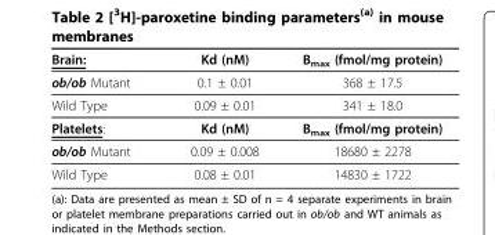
<table><thead><tr><td>Brain:</td><td>Kd (nM)</td><td>B<sub>max</sub> (fmol/mg protein)</td></tr></thead><tbody><tr><td>ob/ob Mutant</td><td>0.1 ± 0.01</td><td>368 ± 17.5</td></tr><tr><td>Wild Type</td><td>0.09 ± 0.01</td><td>341 ± 18.0</td></tr><tr><td>Platelets:</td><td>Kd (nM)</td><td>B<sub>max</sub> (fmol/mg protein)</td></tr><tr><td>ob/ob Mutant</td><td>0.09 ± 0.008</td><td>18680 ± 2278</td></tr><tr><td>Wild Type</td><td>0.08 ± 0.01</td><td>14830 ± 1722</td></tr></tbody></table>